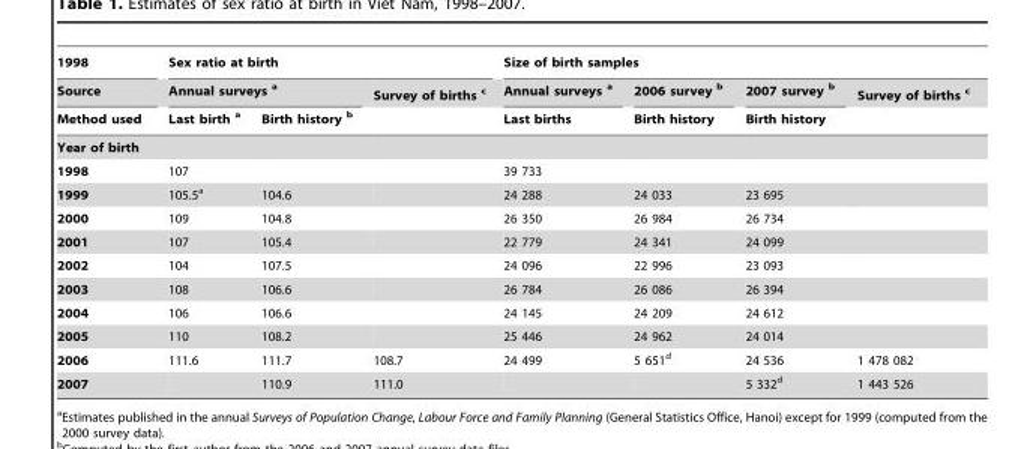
<table><thead><tr><td rowspan="3">1998 Source Method used</td><td colspan="3">Sex ratio at birth</td><td colspan="4">Size of birth samples</td></tr><tr><td colspan="2">Annual surveys a</td><td rowspan="2">Survey of births c</td><td rowspan="2">Annual surveys a Last births</td><td rowspan="2">2006 survey b Birth history</td><td rowspan="2">2007 survey b Birth history</td><td rowspan="2">Survey of births c</td></tr><tr><td>Last birth a</td><td>Birth history b</td></tr></thead><tbody><tr><td colspan="8">Year of birth</td></tr><tr><td>1998</td><td>107</td><td></td><td></td><td>39 733</td><td></td><td></td><td></td></tr><tr><td>1999</td><td>105.5<sup>a</sup></td><td>104.6</td><td></td><td>24 288</td><td>24 033</td><td>23 695</td><td></td></tr><tr><td>2000</td><td>109</td><td>104.8</td><td></td><td>26 350</td><td>26 984</td><td>26 734</td><td></td></tr><tr><td>2001</td><td>107</td><td>105.4</td><td></td><td>22 779</td><td>24 341</td><td>24 099</td><td></td></tr><tr><td>2002</td><td>104</td><td>107.5</td><td></td><td>24 096</td><td>22 996</td><td>23 093</td><td></td></tr><tr><td>2003</td><td>108</td><td>106.6</td><td></td><td>26 784</td><td>26 086</td><td>26 394</td><td></td></tr><tr><td>2004</td><td>106</td><td>106.6</td><td></td><td>24 145</td><td>24 209</td><td>24 612</td><td></td></tr><tr><td>2005</td><td>110</td><td>108.2</td><td></td><td>25 446</td><td>24 962</td><td>24 014</td><td></td></tr><tr><td>2006</td><td>111.6</td><td>111.7</td><td>108.7</td><td>24 499</td><td>5 651<sup>d</sup></td><td>24 536</td><td>1 478 082</td></tr><tr><td>2007</td><td></td><td>110.9</td><td>111.0</td><td></td><td></td><td>5 332<sup>d</sup></td><td>1 443 526</td></tr></tbody></table>